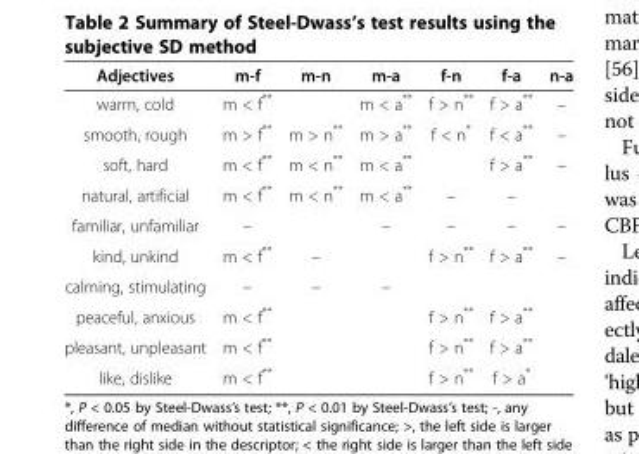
<table><thead><tr><td>Adjectives</td><td>m-f</td><td>m-n</td><td>m-a</td><td>f-n</td><td>f-a</td><td>n-a</td></tr></thead><tbody><tr><td>warm, cold</td><td>m &lt; f**</td><td></td><td>m &lt; a**</td><td>f &gt; n**</td><td>f &gt; a**</td><td>–</td></tr><tr><td>smooth, rough</td><td>m &gt; f**</td><td>m &gt; n**</td><td>m &gt; a**</td><td>f &lt; n*</td><td>f &lt; a**</td><td>–</td></tr><tr><td>soft, hard</td><td>m &lt; f**</td><td>m &lt; n**</td><td>m &lt; a**</td><td></td><td>f &gt; a**</td><td>–</td></tr><tr><td>natural, artificial</td><td>m &lt; f**</td><td>m &lt; n**</td><td>m &lt; a**</td><td>–</td><td>–</td><td></td></tr><tr><td>familiar, unfamiliar</td><td>–</td><td></td><td>–</td><td>–</td><td>–</td><td>–</td></tr><tr><td>kind, unkind</td><td>m &lt; f**</td><td>–</td><td></td><td>f &gt; n**</td><td>f &gt; a**</td><td>–</td></tr><tr><td>calming, stimulating</td><td>–</td><td>–</td><td>–</td><td></td><td></td><td></td></tr><tr><td>peaceful, anxious</td><td>m &lt; f**</td><td></td><td></td><td>f &gt; n**</td><td>f &gt; a**</td><td></td></tr><tr><td>pleasant, unpleasant</td><td>m &lt; f**</td><td></td><td></td><td>f &gt; n**</td><td>f &gt; a**</td><td></td></tr><tr><td>like, dislike</td><td>m &lt; f**</td><td></td><td></td><td>f &gt; n**</td><td>f &gt; a*</td><td></td></tr></tbody></table>